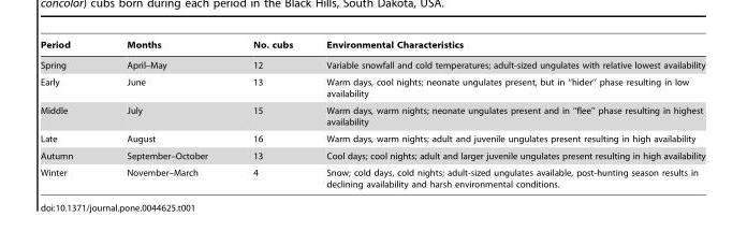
<table><thead><tr><td>Period</td><td>Months</td><td>No. cubs</td><td>Environmental Characteristics</td></tr></thead><tbody><tr><td>Spring</td><td>April–May</td><td>12</td><td>Variable snowfall and cold temperatures; adult-sized ungulates with relative lowest availability</td></tr><tr><td>Early</td><td>June</td><td>13</td><td>Warm days, cool nights; neonate ungulates present, but in ‘‘hider’’ phase resulting in low availability</td></tr><tr><td>Middle</td><td>July</td><td>15</td><td>Warm days, warm nights; neonate ungulates present and in ‘‘flee’’ phase resulting in highest availability</td></tr><tr><td>Late</td><td>August</td><td>16</td><td>Warm days, warm nights; adult and juvenile ungulates present resulting in high availability</td></tr><tr><td>Autumn</td><td>September–October</td><td>13</td><td>Cool days; cool nights; adult and larger juvenile ungulates present resulting in high availability</td></tr><tr><td>Winter</td><td>November–March</td><td>4</td><td>Snow; cold days, cold nights; adult-sized ungulates available, post-hunting season results in declining availability and harsh environmental conditions.</td></tr></tbody></table>